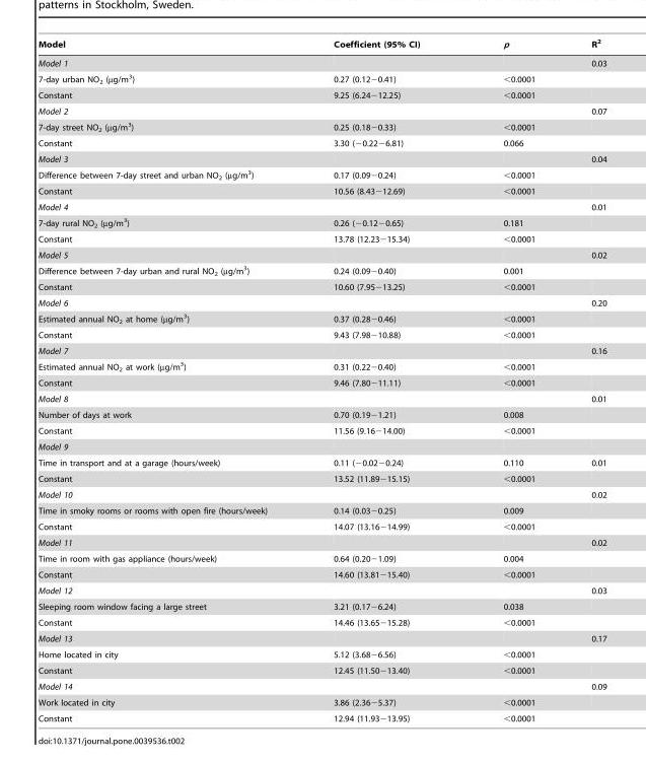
<table><thead><tr><td>Model</td><td>Coefficient (95% CI)</td><td>p</td><td>R<sup>2</sup></td></tr></thead><tbody><tr><td>Model 1</td><td></td><td></td><td>0.03</td></tr><tr><td>7-day urban NO<sub>2</sub> (µg/m<sup>3</sup>)</td><td>0.27 (0.12−0.41)</td><td>&lt;0.0001</td><td></td></tr><tr><td>Constant</td><td>9.25 (6.24−12.25)</td><td>&lt;0.0001</td><td></td></tr><tr><td>Model 2</td><td></td><td></td><td>0.07</td></tr><tr><td>7-day street NO<sub>2</sub> (µg/m<sup>3</sup>)</td><td>0.25 (0.18−0.33)</td><td>&lt;0.0001</td><td></td></tr><tr><td>Constant</td><td>3.30 (−0.22−6.81)</td><td>0.066</td><td></td></tr><tr><td>Model 3</td><td></td><td></td><td>0.04</td></tr><tr><td>Difference between 7-day street and urban NO<sub>2</sub> (µg/m<sup>3</sup>)</td><td>0.17 (0.09−0.24)</td><td>&lt;0.0001</td><td></td></tr><tr><td>Constant</td><td>10.56 (8.43−12.69)</td><td>&lt;0.0001</td><td></td></tr><tr><td>Model 4</td><td></td><td></td><td>0.01</td></tr><tr><td>7-day rural NO<sub>2</sub> (µg/m<sup>3</sup>)</td><td>0.26 (−0.12−0.65)</td><td>0.181</td><td></td></tr><tr><td>Constant</td><td>13.78 (12.23−15.34)</td><td>&lt;0.0001</td><td></td></tr><tr><td>Model 5</td><td></td><td></td><td>0.02</td></tr><tr><td>Difference between 7-day urban and rural NO<sub>2</sub> (µg/m<sup>3</sup>)</td><td>0.24 (0.09−0.40)</td><td>0.001</td><td></td></tr><tr><td>Constant</td><td>10.60 (7.95−13.25)</td><td>&lt;0.0001</td><td></td></tr><tr><td>Model 6</td><td></td><td></td><td>0.20</td></tr><tr><td>Estimated annual NO<sub>2</sub> at home (µg/m<sup>3</sup>)</td><td>0.37 (0.28−0.46)</td><td>&lt;0.0001</td><td></td></tr><tr><td>Constant</td><td>9.43 (7.98−10.88)</td><td>&lt;0.0001</td><td></td></tr><tr><td>Model 7</td><td></td><td></td><td>0.16</td></tr><tr><td>Estimated annual NO<sub>2</sub> at work (µg/m<sup>3</sup>)</td><td>0.31 (0.22−0.40)</td><td>&lt;0.0001</td><td></td></tr><tr><td>Constant</td><td>9.46 (7.80−11.11)</td><td>&lt;0.0001</td><td></td></tr><tr><td>Model 8</td><td></td><td></td><td>0.01</td></tr><tr><td>Number of days at work</td><td>0.70 (0.19−1.21)</td><td>0.008</td><td></td></tr><tr><td>Constant</td><td>11.56 (9.16−14.00)</td><td>&lt;0.0001</td><td></td></tr><tr><td colspan="4">Model 9</td></tr><tr><td>Time in transport and at a garage (hours/week)</td><td>0.11 (−0.02−0.24)</td><td>0.110</td><td>0.01</td></tr><tr><td>Constant</td><td>13.52 (11.89−15.15)</td><td>&lt;0.0001</td><td></td></tr><tr><td>Model 10</td><td></td><td></td><td>0.02</td></tr><tr><td>Time in smoky rooms or rooms with open fire (hours/week)</td><td>0.14 (0.03−0.25)</td><td>0.009</td><td></td></tr><tr><td>Constant</td><td>14.07 (13.16−14.99)</td><td>&lt;0.0001</td><td></td></tr><tr><td>Model 11</td><td></td><td></td><td>0.02</td></tr><tr><td>Time in room with gas appliance (hours/week)</td><td>0.64 (0.20−1.09)</td><td>0.004</td><td></td></tr><tr><td>Constant</td><td>14.60 (13.81−15.40)</td><td>&lt;0.0001</td><td></td></tr><tr><td>Model 12</td><td></td><td></td><td>0.03</td></tr><tr><td>Sleeping room window facing a large street</td><td>3.21 (0.17−6.24)</td><td>0.038</td><td></td></tr><tr><td>Constant</td><td>14.46 (13.65−15.28)</td><td>&lt;0.0001</td><td></td></tr><tr><td>Model 13</td><td></td><td></td><td>0.17</td></tr><tr><td>Home located in city</td><td>5.12 (3.68−6.56)</td><td>&lt;0.0001</td><td></td></tr><tr><td>Constant</td><td>12.45 (11.50−13.40)</td><td>&lt;0.0001</td><td></td></tr><tr><td>Model 14</td><td></td><td></td><td>0.09</td></tr><tr><td>Work located in city</td><td>3.86 (2.36−5.37)</td><td>&lt;0.0001</td><td></td></tr><tr><td>Constant</td><td>12.94 (11.93−13.95)</td><td>&lt;0.0001</td><td></td></tr></tbody></table>